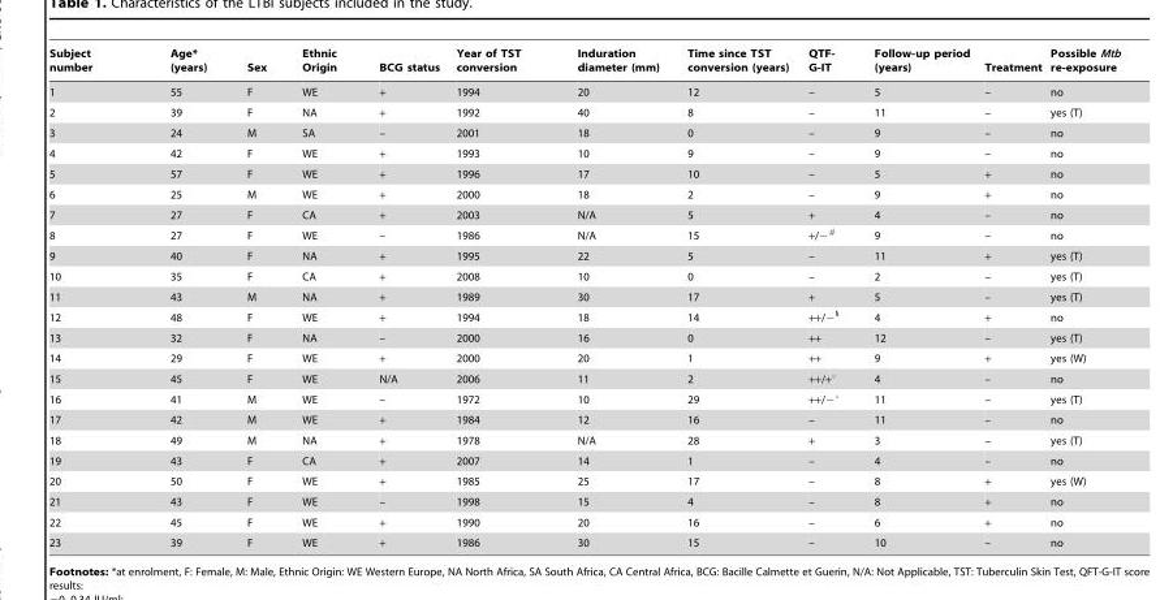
<table><thead><tr><td>Subject number</td><td>Age* (years)</td><td>Sex</td><td>Ethnic Origin</td><td>BCG status</td><td>Year of TST conversion</td><td>Induration diameter (mm)</td><td>Time since TST conversion (years)</td><td>QTF- G-IT</td><td>Follow-up period (years)</td><td>Treatment</td><td>Possible Mtb re-exposure</td></tr></thead><tbody><tr><td>1</td><td>55</td><td>F</td><td>WE</td><td>+</td><td>1994</td><td>20</td><td>12</td><td>–</td><td>5</td><td>–</td><td>no</td></tr><tr><td>2</td><td>39</td><td>F</td><td>NA</td><td>+</td><td>1992</td><td>40</td><td>8</td><td>–</td><td>11</td><td>–</td><td>yes (T)</td></tr><tr><td>3</td><td>24</td><td>M</td><td>SA</td><td>–</td><td>2001</td><td>18</td><td>0</td><td>–</td><td>9</td><td>–</td><td>no</td></tr><tr><td>4</td><td>42</td><td>F</td><td>WE</td><td>+</td><td>1993</td><td>10</td><td>9</td><td>–</td><td>9</td><td>–</td><td>no</td></tr><tr><td>5</td><td>57</td><td>F</td><td>WE</td><td>+</td><td>1996</td><td>17</td><td>10</td><td>–</td><td>5</td><td>+</td><td>no</td></tr><tr><td>6</td><td>25</td><td>M</td><td>WE</td><td>+</td><td>2000</td><td>18</td><td>2</td><td>–</td><td>9</td><td>+</td><td>no</td></tr><tr><td>7</td><td>27</td><td>F</td><td>CA</td><td>+</td><td>2003</td><td>N/A</td><td>5</td><td>+</td><td>4</td><td>–</td><td>no</td></tr><tr><td>8</td><td>27</td><td>F</td><td>WE</td><td>–</td><td>1986</td><td>N/A</td><td>15</td><td>+/−<sup>#</sup></td><td>9</td><td>–</td><td>no</td></tr><tr><td>9</td><td>40</td><td>F</td><td>NA</td><td>+</td><td>1995</td><td>22</td><td>5</td><td>–</td><td>11</td><td>+</td><td>yes (T)</td></tr><tr><td>10</td><td>35</td><td>F</td><td>CA</td><td>+</td><td>2008</td><td>10</td><td>0</td><td>–</td><td>2</td><td>–</td><td>yes (T)</td></tr><tr><td>11</td><td>43</td><td>M</td><td>NA</td><td>+</td><td>1989</td><td>30</td><td>17</td><td>+</td><td>5</td><td>–</td><td>yes (T)</td></tr><tr><td>12</td><td>48</td><td>F</td><td>WE</td><td>+</td><td>1994</td><td>18</td><td>14</td><td>++/−§</td><td>4</td><td>+</td><td>no</td></tr><tr><td>13</td><td>32</td><td>F</td><td>NA</td><td>–</td><td>2000</td><td>16</td><td>0</td><td>++</td><td>12</td><td>–</td><td>yes (T)</td></tr><tr><td>14</td><td>29</td><td>F</td><td>WE</td><td>+</td><td>2000</td><td>20</td><td>1</td><td>++</td><td>9</td><td>+</td><td>yes (W)</td></tr><tr><td>15</td><td>45</td><td>F</td><td>WE</td><td>N/A</td><td>2006</td><td>11</td><td>2</td><td>++/+°</td><td>4</td><td>–</td><td>no</td></tr><tr><td>16</td><td>41</td><td>M</td><td>WE</td><td>–</td><td>1972</td><td>10</td><td>29</td><td>++/−°</td><td>11</td><td>–</td><td>yes (T)</td></tr><tr><td>17</td><td>42</td><td>M</td><td>WE</td><td>+</td><td>1984</td><td>12</td><td>16</td><td>–</td><td>11</td><td>–</td><td>no</td></tr><tr><td>18</td><td>49</td><td>M</td><td>NA</td><td>+</td><td>1978</td><td>N/A</td><td>28</td><td>+</td><td>3</td><td>–</td><td>yes (T)</td></tr><tr><td>19</td><td>43</td><td>F</td><td>CA</td><td>+</td><td>2007</td><td>14</td><td>1</td><td>–</td><td>4</td><td>–</td><td>no</td></tr><tr><td>20</td><td>50</td><td>F</td><td>WE</td><td>+</td><td>1985</td><td>25</td><td>17</td><td>–</td><td>8</td><td>+</td><td>yes (W)</td></tr><tr><td>21</td><td>43</td><td>F</td><td>WE</td><td>–</td><td>1998</td><td>15</td><td>4</td><td>–</td><td>8</td><td>+</td><td>no</td></tr><tr><td>22</td><td>45</td><td>F</td><td>WE</td><td>+</td><td>1990</td><td>20</td><td>16</td><td>–</td><td>6</td><td>+</td><td>no</td></tr><tr><td>23</td><td>39</td><td>F</td><td>WE</td><td>+</td><td>1986</td><td>30</td><td>15</td><td>–</td><td>10</td><td>–</td><td>no</td></tr></tbody></table>